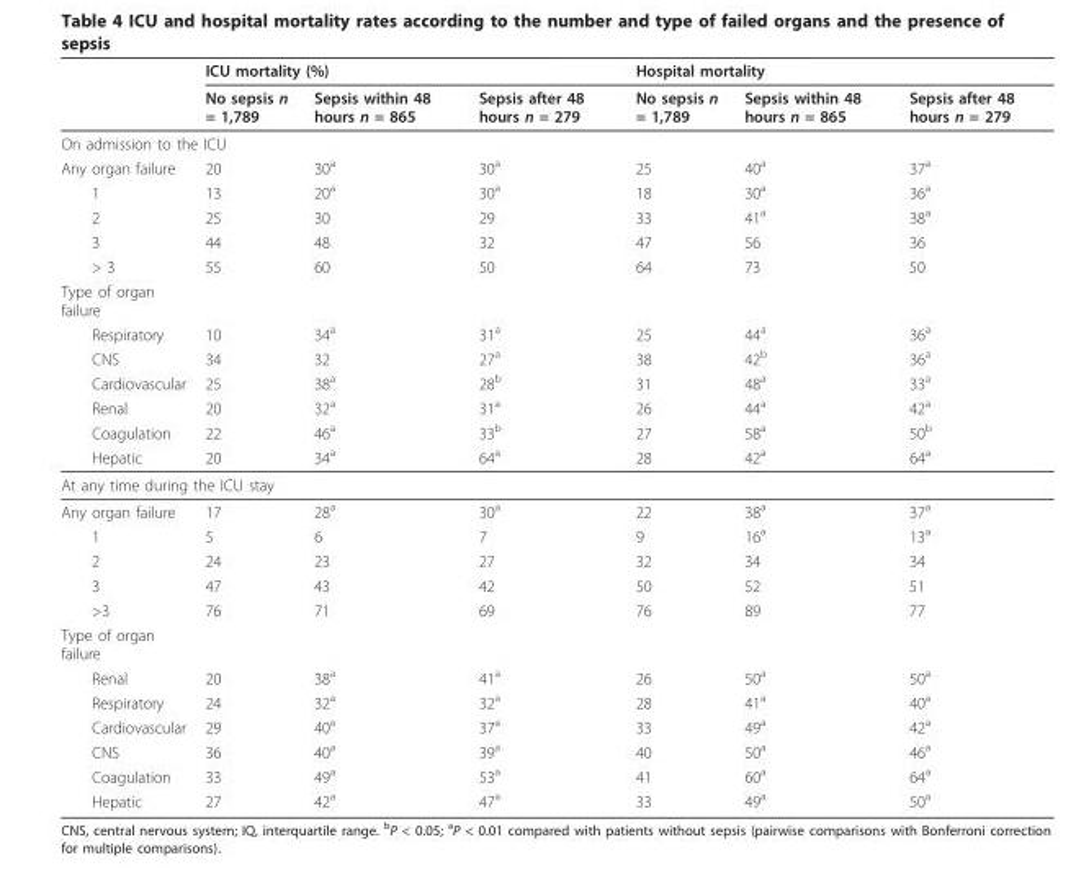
<table><thead><tr><td rowspan="2"></td><td colspan="3">ICU mortality (%)</td><td colspan="3">Hospital mortality</td></tr><tr><td>No sepsis n = 1,789</td><td>Sepsis within 48 hours n = 865</td><td>Sepsis after 48 hours n = 279</td><td>No sepsis n = 1,789</td><td>Sepsis within 48 hours n = 865</td><td>Sepsis after 48 hours n = 279</td></tr></thead><tbody><tr><td colspan="7">On admission to the ICU</td></tr><tr><td>Any organ failure</td><td>20</td><td>30<sup>a</sup></td><td>30<sup>a</sup></td><td>25</td><td>40<sup>a</sup></td><td>37<sup>a</sup></td></tr><tr><td>1</td><td>13</td><td>20<sup>a</sup></td><td>30<sup>a</sup></td><td>18</td><td>30<sup>a</sup></td><td>36<sup>a</sup></td></tr><tr><td>2</td><td>25</td><td>30</td><td>29</td><td>33</td><td>41<sup>a</sup></td><td>38<sup>a</sup></td></tr><tr><td>3</td><td>44</td><td>48</td><td>32</td><td>47</td><td>56</td><td>36</td></tr><tr><td>&gt; 3</td><td>55</td><td>60</td><td>50</td><td>64</td><td>73</td><td>50</td></tr><tr><td colspan="7">Type of organ failure</td></tr><tr><td>Respiratory</td><td>10</td><td>34<sup>a</sup></td><td>31<sup>a</sup></td><td>25</td><td>44<sup>a</sup></td><td>36<sup>a</sup></td></tr><tr><td>CNS</td><td>34</td><td>32</td><td>27<sup>a</sup></td><td>38</td><td>42<sup>b</sup></td><td>36<sup>a</sup></td></tr><tr><td>Cardiovascular</td><td>25</td><td>38<sup>a</sup></td><td>28<sup>b</sup></td><td>31</td><td>48<sup>a</sup></td><td>33<sup>a</sup></td></tr><tr><td>Renal</td><td>20</td><td>32<sup>a</sup></td><td>31<sup>a</sup></td><td>26</td><td>44<sup>a</sup></td><td>42<sup>a</sup></td></tr><tr><td>Coagulation</td><td>22</td><td>46<sup>a</sup></td><td>33<sup>b</sup></td><td>27</td><td>58<sup>a</sup></td><td>50<sup>b</sup></td></tr><tr><td>Hepatic</td><td>20</td><td>34<sup>a</sup></td><td>64<sup>a</sup></td><td>28</td><td>42<sup>a</sup></td><td>64<sup>a</sup></td></tr><tr><td colspan="7">At any time during the ICU stay</td></tr><tr><td>Any organ failure</td><td>17</td><td>28<sup>a</sup></td><td>30<sup>a</sup></td><td>22</td><td>38<sup>a</sup></td><td>37<sup>a</sup></td></tr><tr><td>1</td><td>5</td><td>6</td><td>7</td><td>9</td><td>16<sup>a</sup></td><td>13<sup>a</sup></td></tr><tr><td>2</td><td>24</td><td>23</td><td>27</td><td>32</td><td>34</td><td>34</td></tr><tr><td>3</td><td>47</td><td>43</td><td>42</td><td>50</td><td>52</td><td>51</td></tr><tr><td>&gt;3</td><td>76</td><td>71</td><td>69</td><td>76</td><td>89</td><td>77</td></tr><tr><td colspan="7">Type of organ failure</td></tr><tr><td>Renal</td><td>20</td><td>38<sup>a</sup></td><td>41<sup>a</sup></td><td>26</td><td>50<sup>a</sup></td><td>50<sup>a</sup></td></tr><tr><td>Respiratory</td><td>24</td><td>32<sup>a</sup></td><td>32<sup>a</sup></td><td>28</td><td>41<sup>a</sup></td><td>40<sup>a</sup></td></tr><tr><td>Cardiovascular</td><td>29</td><td>40<sup>a</sup></td><td>37<sup>a</sup></td><td>33</td><td>49<sup>a</sup></td><td>42<sup>a</sup></td></tr><tr><td>CNS</td><td>36</td><td>40<sup>a</sup></td><td>39<sup>a</sup></td><td>40</td><td>50<sup>a</sup></td><td>46<sup>a</sup></td></tr><tr><td>Coagulation</td><td>33</td><td>49<sup>a</sup></td><td>53<sup>a</sup></td><td>41</td><td>60<sup>a</sup></td><td>64<sup>a</sup></td></tr><tr><td>Hepatic</td><td>27</td><td>42<sup>a</sup></td><td>47<sup>a</sup></td><td>33</td><td>49<sup>a</sup></td><td>50<sup>a</sup></td></tr></tbody></table>